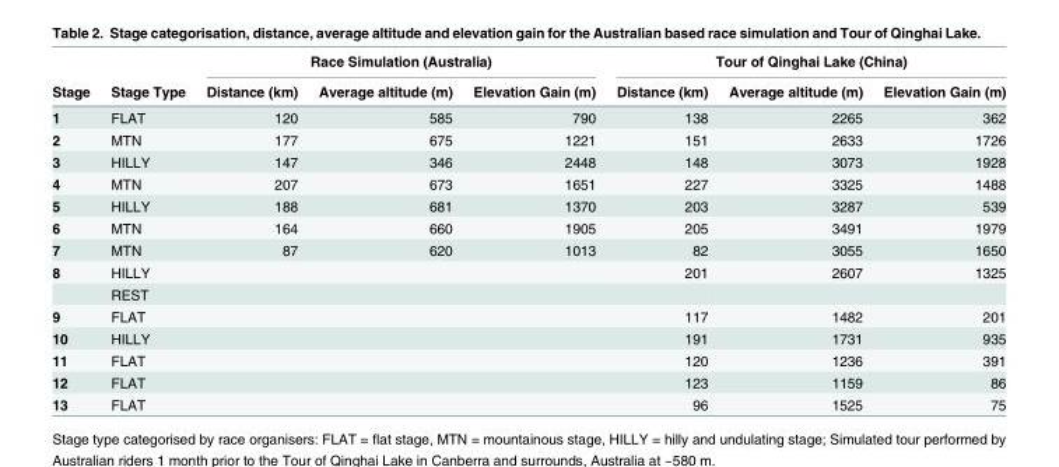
<table><thead><tr><td rowspan="2">Stage</td><td rowspan="2">Stage Type</td><td colspan="3">Race Simulation (Australia)</td><td colspan="3">Tour of Qinghai Lake (China)</td></tr><tr><td>Distance (km)</td><td>Average altitude (m)</td><td>Elevation Gain (m)</td><td>Distance (km)</td><td>Average altitude (m)</td><td>Elevation Gain (m)</td></tr></thead><tbody><tr><td>1</td><td>FLAT</td><td>120</td><td>585</td><td>790</td><td>138</td><td>2265</td><td>362</td></tr><tr><td>2</td><td>MTN</td><td>177</td><td>675</td><td>1221</td><td>151</td><td>2633</td><td>1726</td></tr><tr><td>3</td><td>HILLY</td><td>147</td><td>346</td><td>2448</td><td>148</td><td>3073</td><td>1928</td></tr><tr><td>4</td><td>MTN</td><td>207</td><td>673</td><td>1651</td><td>227</td><td>3325</td><td>1488</td></tr><tr><td>5</td><td>HILLY</td><td>188</td><td>681</td><td>1370</td><td>203</td><td>3287</td><td>539</td></tr><tr><td>6</td><td>MTN</td><td>164</td><td>660</td><td>1905</td><td>205</td><td>3491</td><td>1979</td></tr><tr><td>7</td><td>MTN</td><td>87</td><td>620</td><td>1013</td><td>82</td><td>3055</td><td>1650</td></tr><tr><td rowspan="2">8</td><td>HILLY</td><td></td><td></td><td></td><td>201</td><td>2607</td><td>1325</td></tr><tr><td>REST</td><td></td><td></td><td></td><td></td><td></td><td></td></tr><tr><td>9</td><td>FLAT</td><td></td><td></td><td></td><td>117</td><td>1482</td><td>201</td></tr><tr><td>10</td><td>HILLY</td><td></td><td></td><td></td><td>191</td><td>1731</td><td>935</td></tr><tr><td>11</td><td>FLAT</td><td></td><td></td><td></td><td>120</td><td>1236</td><td>391</td></tr><tr><td>12</td><td>FLAT</td><td></td><td></td><td></td><td>123</td><td>1159</td><td>86</td></tr><tr><td>13</td><td>FLAT</td><td></td><td></td><td></td><td>96</td><td>1525</td><td>75</td></tr></tbody></table>